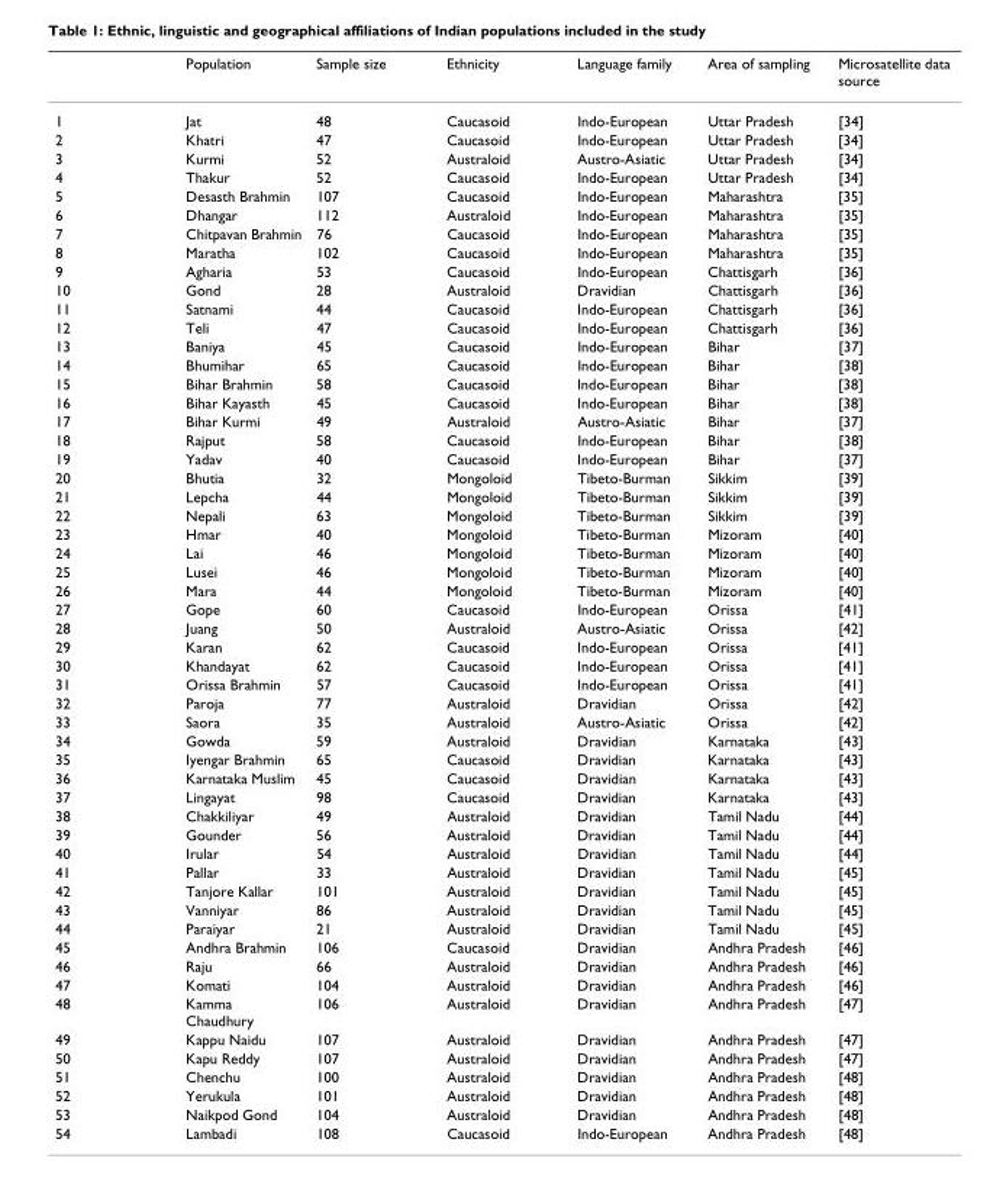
<table><thead><tr><td></td><td>Population</td><td>Sample size</td><td>Ethnicity</td><td>Language family</td><td>Area of sampling</td><td>Microsatellite data source</td></tr></thead><tbody><tr><td>1</td><td>Jat</td><td>48</td><td>Caucasoid</td><td>Indo-European</td><td>Uttar Pradesh</td><td>[34]</td></tr><tr><td>2</td><td>Khatri</td><td>47</td><td>Caucasoid</td><td>Indo-European</td><td>Uttar Pradesh</td><td>[34]</td></tr><tr><td>3</td><td>Kurmi</td><td>52</td><td>Australoid</td><td>Austro-Asiatic</td><td>Uttar Pradesh</td><td>[34]</td></tr><tr><td>4</td><td>Thakur</td><td>52</td><td>Caucasoid</td><td>Indo-European</td><td>Uttar Pradesh</td><td>[34]</td></tr><tr><td>5</td><td>Desasth Brahmin</td><td>107</td><td>Caucasoid</td><td>Indo-European</td><td>Maharashtra</td><td>[35]</td></tr><tr><td>6</td><td>Dhangar</td><td>112</td><td>Australoid</td><td>Indo-European</td><td>Maharashtra</td><td>[35]</td></tr><tr><td>7</td><td>Chitpavan Brahmin</td><td>76</td><td>Caucasoid</td><td>Indo-European</td><td>Maharashtra</td><td>[35]</td></tr><tr><td>8</td><td>Maratha</td><td>102</td><td>Caucasoid</td><td>Indo-European</td><td>Maharashtra</td><td>[35]</td></tr><tr><td>9</td><td>Agharia</td><td>53</td><td>Caucasoid</td><td>Indo-European</td><td>Chattisgarh</td><td>[36]</td></tr><tr><td>10</td><td>Gond</td><td>28</td><td>Australoid</td><td>Dravidian</td><td>Chattisgarh</td><td>[36]</td></tr><tr><td>11</td><td>Satnami</td><td>44</td><td>Caucasoid</td><td>Indo-European</td><td>Chattisgarh</td><td>[36]</td></tr><tr><td>12</td><td>Teli</td><td>47</td><td>Caucasoid</td><td>Indo-European</td><td>Chattisgarh</td><td>[36]</td></tr><tr><td>13</td><td>Baniya</td><td>45</td><td>Caucasoid</td><td>Indo-European</td><td>Bihar</td><td>[37]</td></tr><tr><td>14</td><td>Bhumihar</td><td>65</td><td>Caucasoid</td><td>Indo-European</td><td>Bihar</td><td>[38]</td></tr><tr><td>15</td><td>Bihar Brahmin</td><td>58</td><td>Caucasoid</td><td>Indo-European</td><td>Bihar</td><td>[38]</td></tr><tr><td>16</td><td>Bihar Kayasth</td><td>45</td><td>Caucasoid</td><td>Indo-European</td><td>Bihar</td><td>[38]</td></tr><tr><td>17</td><td>Bihar Kurmi</td><td>49</td><td>Australoid</td><td>Austro-Asiatic</td><td>Bihar</td><td>[37]</td></tr><tr><td>18</td><td>Rajput</td><td>58</td><td>Caucasoid</td><td>Indo-European</td><td>Bihar</td><td>[38]</td></tr><tr><td>19</td><td>Yadav</td><td>40</td><td>Caucasoid</td><td>Indo-European</td><td>Bihar</td><td>[37]</td></tr><tr><td>20</td><td>Bhutia</td><td>32</td><td>Mongoloid</td><td>Tibeto-Burman</td><td>Sikkim</td><td>[39]</td></tr><tr><td>21</td><td>Lepcha</td><td>44</td><td>Mongoloid</td><td>Tibeto-Burman</td><td>Sikkim</td><td>[39]</td></tr><tr><td>22</td><td>Nepali</td><td>63</td><td>Mongoloid</td><td>Tibeto-Burman</td><td>Sikkim</td><td>[39]</td></tr><tr><td>23</td><td>Hmar</td><td>40</td><td>Mongoloid</td><td>Tibeto-Burman</td><td>Mizoram</td><td>[40]</td></tr><tr><td>24</td><td>Lai</td><td>46</td><td>Mongoloid</td><td>Tibeto-Burman</td><td>Mizoram</td><td>[40]</td></tr><tr><td>25</td><td>Lusei</td><td>46</td><td>Mongoloid</td><td>Tibeto-Burman</td><td>Mizoram</td><td>[40]</td></tr><tr><td>26</td><td>Mara</td><td>44</td><td>Mongoloid</td><td>Tibeto-Burman</td><td>Mizoram</td><td>[40]</td></tr><tr><td>27</td><td>Gope</td><td>60</td><td>Caucasoid</td><td>Indo-European</td><td>Orissa</td><td>[41]</td></tr><tr><td>28</td><td>Juang</td><td>50</td><td>Australoid</td><td>Austro-Asiatic</td><td>Orissa</td><td>[42]</td></tr><tr><td>29</td><td>Karan</td><td>62</td><td>Caucasoid</td><td>Indo-European</td><td>Orissa</td><td>[41]</td></tr><tr><td>30</td><td>Khandayat</td><td>62</td><td>Caucasoid</td><td>Indo-European</td><td>Orissa</td><td>[41]</td></tr><tr><td>31</td><td>Orissa Brahmin</td><td>57</td><td>Caucasoid</td><td>Indo-European</td><td>Orissa</td><td>[41]</td></tr><tr><td>32</td><td>Paroja</td><td>77</td><td>Australoid</td><td>Dravidian</td><td>Orissa</td><td>[42]</td></tr><tr><td>33</td><td>Saora</td><td>35</td><td>Australoid</td><td>Austro-Asiatic</td><td>Orissa</td><td>[42]</td></tr><tr><td>34</td><td>Gowda</td><td>59</td><td>Australoid</td><td>Dravidian</td><td>Karnataka</td><td>[43]</td></tr><tr><td>35</td><td>Iyengar Brahmin</td><td>65</td><td>Caucasoid</td><td>Dravidian</td><td>Karnataka</td><td>[43]</td></tr><tr><td>36</td><td>Karnataka Muslim</td><td>45</td><td>Caucasoid</td><td>Dravidian</td><td>Karnataka</td><td>[43]</td></tr><tr><td>37</td><td>Lingayat</td><td>98</td><td>Caucasoid</td><td>Dravidian</td><td>Karnataka</td><td>[43]</td></tr><tr><td>38</td><td>Chakkiliyar</td><td>49</td><td>Australoid</td><td>Dravidian</td><td>Tamil Nadu</td><td>[44]</td></tr><tr><td>39</td><td>Gounder</td><td>56</td><td>Australoid</td><td>Dravidian</td><td>Tamil Nadu</td><td>[44]</td></tr><tr><td>40</td><td>Irular</td><td>54</td><td>Australoid</td><td>Dravidian</td><td>Tamil Nadu</td><td>[44]</td></tr><tr><td>41</td><td>Pallar</td><td>33</td><td>Australoid</td><td>Dravidian</td><td>Tamil Nadu</td><td>[45]</td></tr><tr><td>42</td><td>Tanjore Kallar</td><td>101</td><td>Australoid</td><td>Dravidian</td><td>Tamil Nadu</td><td>[45]</td></tr><tr><td>43</td><td>Vanniyar</td><td>86</td><td>Australoid</td><td>Dravidian</td><td>Tamil Nadu</td><td>[45]</td></tr><tr><td>44</td><td>Paraiyar</td><td>21</td><td>Australoid</td><td>Dravidian</td><td>Tamil Nadu</td><td>[45]</td></tr><tr><td>45</td><td>Andhra Brahmin</td><td>106</td><td>Caucasoid</td><td>Dravidian</td><td>Andhra Pradesh</td><td>[46]</td></tr><tr><td>46</td><td>Raju</td><td>66</td><td>Australoid</td><td>Dravidian</td><td>Andhra Pradesh</td><td>[46]</td></tr><tr><td>47</td><td>Komati</td><td>104</td><td>Australoid</td><td>Dravidian</td><td>Andhra Pradesh</td><td>[46]</td></tr><tr><td>48</td><td>Kamma Chaudhury</td><td>106</td><td>Australoid</td><td>Dravidian</td><td>Andhra Pradesh</td><td>[47]</td></tr><tr><td>49</td><td>Kappu Naidu</td><td>107</td><td>Australoid</td><td>Dravidian</td><td>Andhra Pradesh</td><td>[47]</td></tr><tr><td>50</td><td>Kapu Reddy</td><td>107</td><td>Australoid</td><td>Dravidian</td><td>Andhra Pradesh</td><td>[47]</td></tr><tr><td>51</td><td>Chenchu</td><td>100</td><td>Australoid</td><td>Dravidian</td><td>Andhra Pradesh</td><td>[48]</td></tr><tr><td>52</td><td>Yerukula</td><td>101</td><td>Australoid</td><td>Dravidian</td><td>Andhra Pradesh</td><td>[48]</td></tr><tr><td>53</td><td>Naikpod Gond</td><td>104</td><td>Australoid</td><td>Dravidian</td><td>Andhra Pradesh</td><td>[48]</td></tr><tr><td>54</td><td>Lambadi</td><td>108</td><td>Caucasoid</td><td>Indo-European</td><td>Andhra Pradesh</td><td>[48]</td></tr></tbody></table>